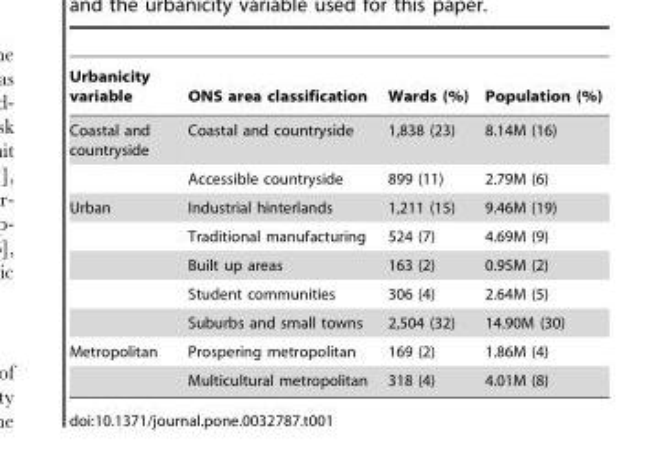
<table><thead><tr><td>Urbanicity variable</td><td>ONS area classification</td><td>Wards (%)</td><td>Population (%)</td></tr></thead><tbody><tr><td rowspan="2">Coastal and countryside</td><td>Coastal and countryside</td><td>1,838 (23)</td><td>8.14M (16)</td></tr><tr><td>Accessible countryside</td><td>899 (11)</td><td>2.79M (6)</td></tr><tr><td rowspan="5">Urban</td><td>Industrial hinterlands</td><td>1,211 (15)</td><td>9.46M (19)</td></tr><tr><td>Traditional manufacturing</td><td>524 (7)</td><td>4.69M (9)</td></tr><tr><td>Built up areas</td><td>163 (2)</td><td>0.95M (2)</td></tr><tr><td>Student communities</td><td>306 (4)</td><td>2.64M (5)</td></tr><tr><td>Suburbs and small towns</td><td>2,504 (32)</td><td>14.90M (30)</td></tr><tr><td rowspan="2">Metropolitan</td><td>Prospering metropolitan</td><td>169 (2)</td><td>1.86M (4)</td></tr><tr><td>Multicultural metropolitan</td><td>318 (4)</td><td>4.01M (8)</td></tr></tbody></table>